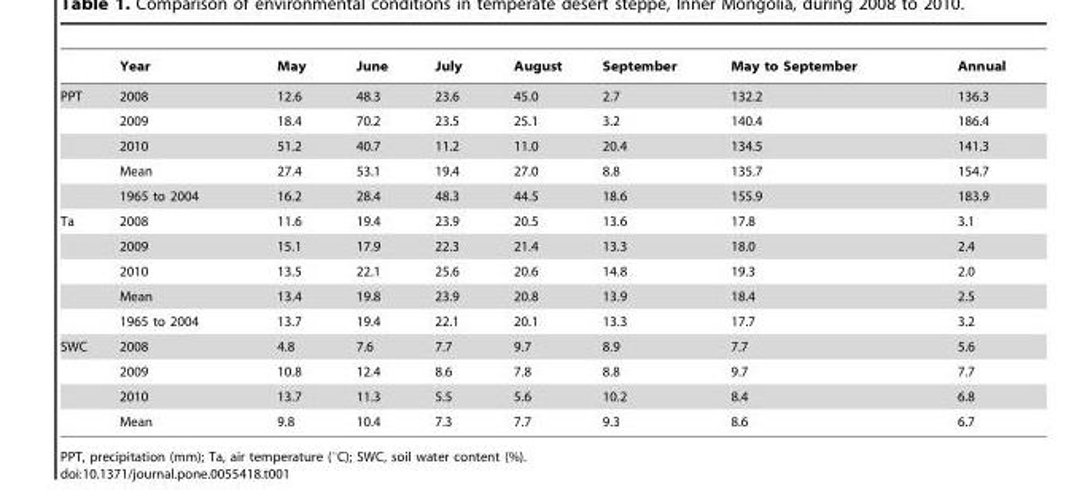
<table><thead><tr><td></td><td>Year</td><td>May</td><td>June</td><td>July</td><td>August</td><td>September</td><td>May to September</td><td>Annual</td></tr></thead><tbody><tr><td rowspan="5">PPT</td><td>2008</td><td>12.6</td><td>48.3</td><td>23.6</td><td>45.0</td><td>2.7</td><td>132.2</td><td>136.3</td></tr><tr><td>2009</td><td>18.4</td><td>70.2</td><td>23.5</td><td>25.1</td><td>3.2</td><td>140.4</td><td>186.4</td></tr><tr><td>2010</td><td>51.2</td><td>40.7</td><td>11.2</td><td>11.0</td><td>20.4</td><td>134.5</td><td>141.3</td></tr><tr><td>Mean</td><td>27.4</td><td>53.1</td><td>19.4</td><td>27.0</td><td>8.8</td><td>135.7</td><td>154.7</td></tr><tr><td>1965 to 2004</td><td>16.2</td><td>28.4</td><td>48.3</td><td>44.5</td><td>18.6</td><td>155.9</td><td>183.9</td></tr><tr><td rowspan="5">Ta</td><td>2008</td><td>11.6</td><td>19.4</td><td>23.9</td><td>20.5</td><td>13.6</td><td>17.8</td><td>3.1</td></tr><tr><td>2009</td><td>15.1</td><td>17.9</td><td>22.3</td><td>21.4</td><td>13.3</td><td>18.0</td><td>2.4</td></tr><tr><td>2010</td><td>13.5</td><td>22.1</td><td>25.6</td><td>20.6</td><td>14.8</td><td>19.3</td><td>2.0</td></tr><tr><td>Mean</td><td>13.4</td><td>19.8</td><td>23.9</td><td>20.8</td><td>13.9</td><td>18.4</td><td>2.5</td></tr><tr><td>1965 to 2004</td><td>13.7</td><td>19.4</td><td>22.1</td><td>20.1</td><td>13.3</td><td>17.7</td><td>3.2</td></tr><tr><td rowspan="4">SWC</td><td>2008</td><td>4.8</td><td>7.6</td><td>7.7</td><td>9.7</td><td>8.9</td><td>7.7</td><td>5.6</td></tr><tr><td>2009</td><td>10.8</td><td>12.4</td><td>8.6</td><td>7.8</td><td>8.8</td><td>9.7</td><td>7.7</td></tr><tr><td>2010</td><td>13.7</td><td>11.3</td><td>5.5</td><td>5.6</td><td>10.2</td><td>8.4</td><td>6.8</td></tr><tr><td>Mean</td><td>9.8</td><td>10.4</td><td>7.3</td><td>7.7</td><td>9.3</td><td>8.6</td><td>6.7</td></tr></tbody></table>